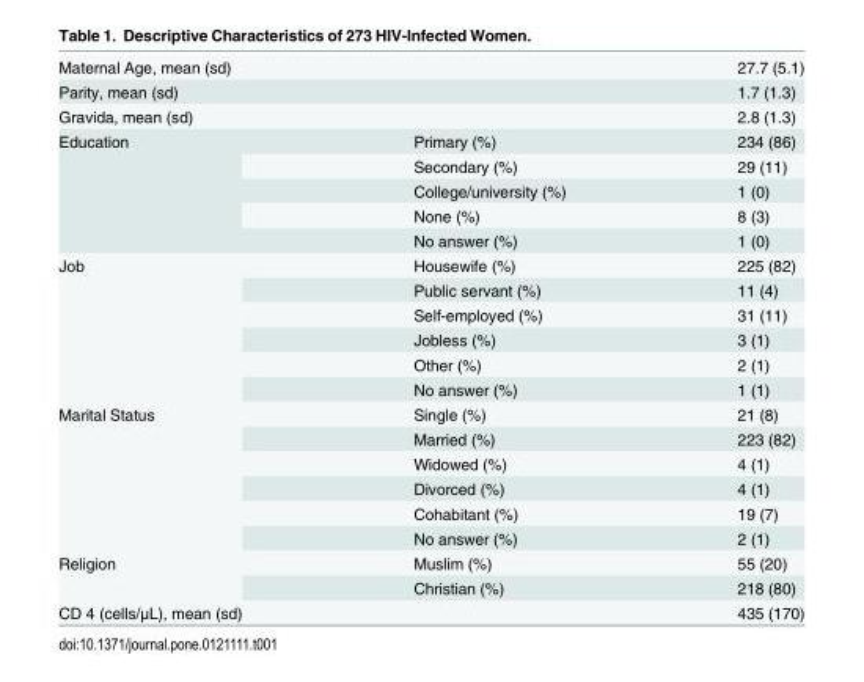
<table><tbody><tr><td>Maternal Age, mean (sd)</td><td></td><td>27.7 (5.1)</td></tr><tr><td>Parity, mean (sd)</td><td></td><td>1.7 (1.3)</td></tr><tr><td>Gravida, mean (sd)</td><td></td><td>2.8 (1.3)</td></tr><tr><td rowspan="5">Education</td><td>Primary (%)</td><td>234 (86)</td></tr><tr><td>Secondary (%)</td><td>29 (11)</td></tr><tr><td>College/university (%)</td><td>1 (0)</td></tr><tr><td>None (%)</td><td>8 (3)</td></tr><tr><td>No answer (%)</td><td>1 (0)</td></tr><tr><td rowspan="6">Job</td><td>Housewife (%)</td><td>225 (82)</td></tr><tr><td>Public servant (%)</td><td>11 (4)</td></tr><tr><td>Self-employed (%)</td><td>31 (11)</td></tr><tr><td>Jobless (%)</td><td>3 (1)</td></tr><tr><td>Other (%)</td><td>2 (1)</td></tr><tr><td>No answer (%)</td><td>1 (1)</td></tr><tr><td rowspan="6">Marital Status</td><td>Single (%)</td><td>21 (8)</td></tr><tr><td>Married (%)</td><td>223 (82)</td></tr><tr><td>Widowed (%)</td><td>4 (1)</td></tr><tr><td>Divorced (%)</td><td>4 (1)</td></tr><tr><td>Cohabitant (%)</td><td>19 (7)</td></tr><tr><td>No answer (%)</td><td>2 (1)</td></tr><tr><td rowspan="2">Religion</td><td>Muslim (%)</td><td>55 (20)</td></tr><tr><td>Christian (%)</td><td>218 (80)</td></tr><tr><td>CD 4 (cells/μL), mean (sd)</td><td></td><td>435 (170)</td></tr></tbody></table>